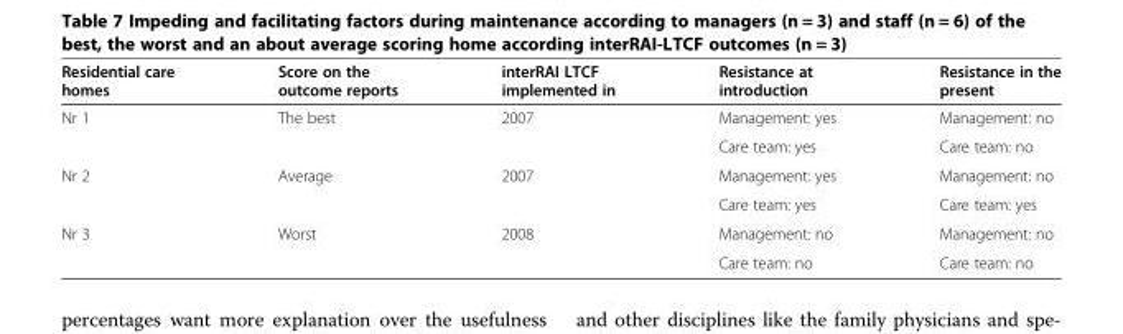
<table><thead><tr><td>Residential care homes</td><td>Score on the outcome reports</td><td>interRAI LTCF implemented in</td><td>Resistance at introduction</td><td>Resistance in the present</td></tr></thead><tbody><tr><td rowspan="2">Nr 1</td><td rowspan="2">The best</td><td rowspan="2">2007</td><td>Management: yes</td><td>Management: no</td></tr><tr><td>Care team: yes</td><td>Care team: no</td></tr><tr><td rowspan="2">Nr 2</td><td>Average</td><td>2007</td><td>Management: yes</td><td>Management: no</td></tr><tr><td></td><td></td><td>Care team: yes</td><td>Care team: yes</td></tr><tr><td rowspan="2">Nr 3</td><td rowspan="2">Worst</td><td rowspan="2">2008</td><td>Management: no</td><td>Management: no</td></tr><tr><td>Care team: no</td><td>Care team: no</td></tr></tbody></table>